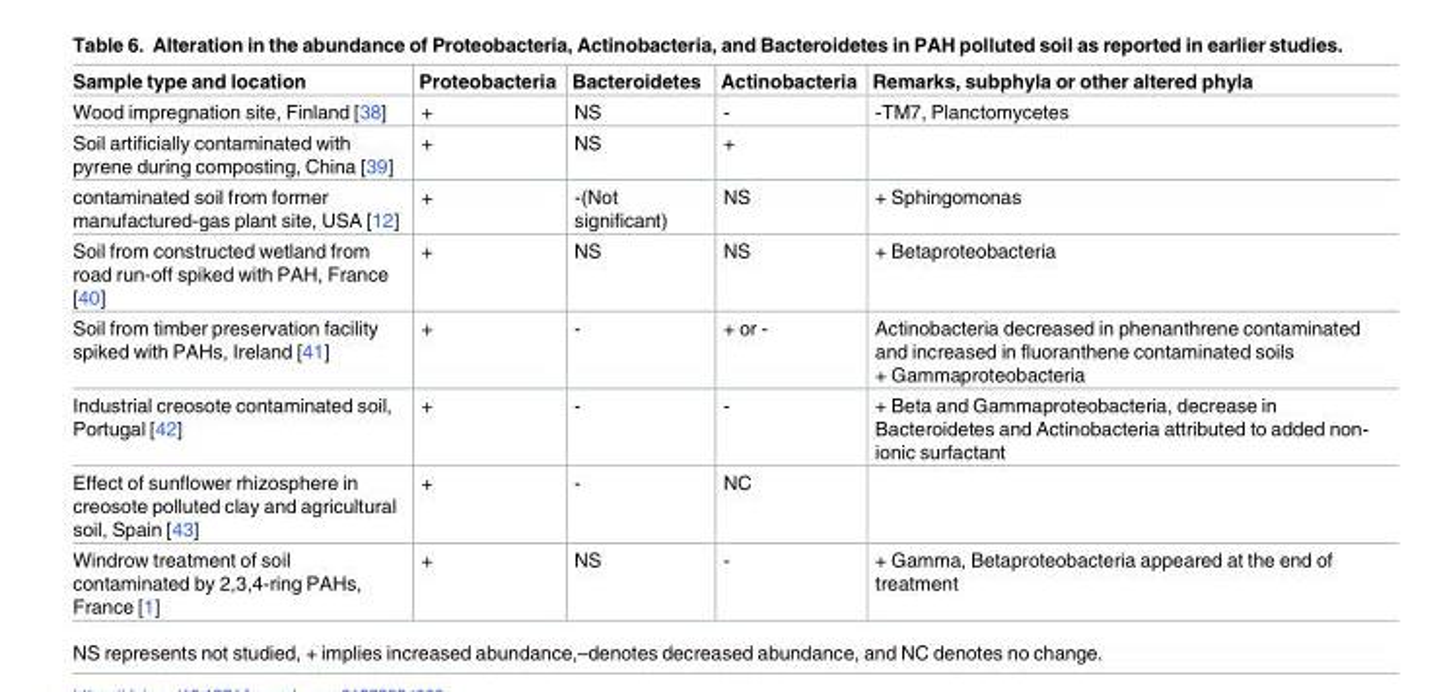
<table><thead><tr><td>Sample type and location</td><td>Proteobacteria</td><td>Bacteroidetes</td><td>Actinobacteria</td><td>Remarks, subphyla or other altered phyla</td></tr></thead><tbody><tr><td>Wood impregnation site, Finland [38]</td><td>+</td><td>NS</td><td>-</td><td>-TM7, Planctomycetes</td></tr><tr><td>Soil artificially contaminated with pyrene during composting, China [39]</td><td>+</td><td>NS</td><td>+</td><td></td></tr><tr><td>contaminated soil from former manufactured-gas plant site, USA [12]</td><td>+</td><td>-(Not significant)</td><td>NS</td><td>+ Sphingomonas</td></tr><tr><td>Soil from constructed wetland from road run-off spiked with PAH, France [40]</td><td>+</td><td>NS</td><td>NS</td><td>+ Betaproteobacteria</td></tr><tr><td>Soil from timber preservation facility spiked with PAHs, Ireland [41]</td><td>+</td><td>-</td><td>+ or -</td><td>Actinobacteria decreased in phenanthrene contaminated and increased in fluoranthene contaminated soils + Gammaproteobacteria</td></tr><tr><td>Industrial creosote contaminated soil, Portugal [42]</td><td>+</td><td>-</td><td>-</td><td>+ Beta and Gammaproteobacteria, decrease in Bacteroidetes and Actinobacteria attributed to added non- ionic surfactant</td></tr><tr><td>Effect of sunflower rhizosphere in creosote polluted clay and agricultural soil, Spain [43]</td><td>+</td><td>-</td><td>NC</td><td></td></tr><tr><td>Windrow treatment of soil contaminated by 2,3,4-ring PAHs, France [1]</td><td>+</td><td>NS</td><td>-</td><td>+ Gamma, Betaproteobacteria appeared at the end of treatment</td></tr></tbody></table>